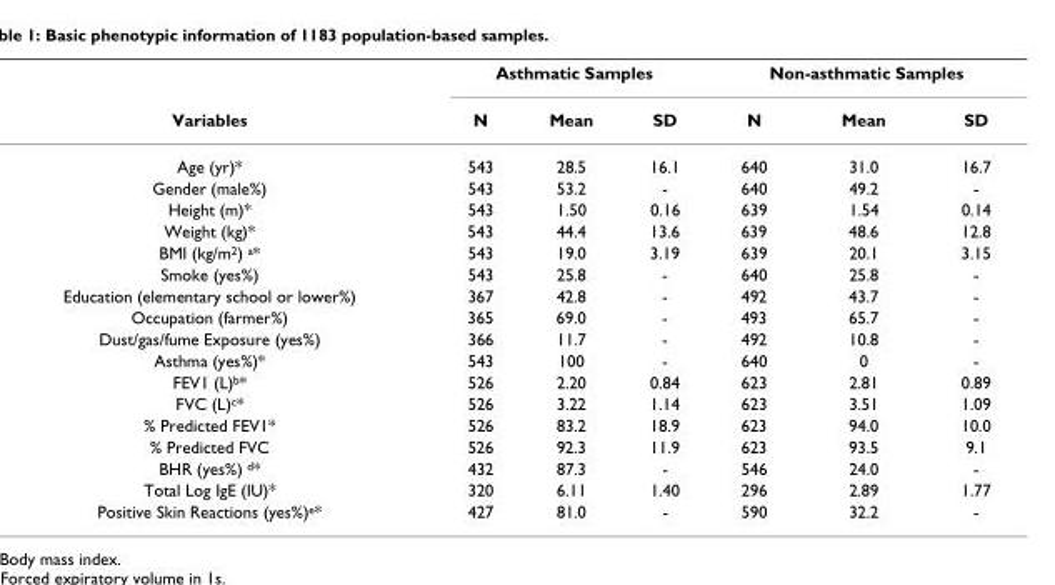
<table><thead><tr><td rowspan="2">Variables</td><td colspan="3">Asthmatic Samples</td><td colspan="3">Non-asthmatic Samples</td></tr><tr><td>N</td><td>Mean</td><td>SD</td><td>N</td><td>Mean</td><td>SD</td></tr></thead><tbody><tr><td>Age (yr)*</td><td>543</td><td>28.5</td><td>16.1</td><td>640</td><td>31.0</td><td>16.7</td></tr><tr><td>Gender (male%)</td><td>543</td><td>53.2</td><td>-</td><td>640</td><td>49.2</td><td>-</td></tr><tr><td>Height (m)*</td><td>543</td><td>1.50</td><td>0.16</td><td>639</td><td>1.54</td><td>0.14</td></tr><tr><td>Weight (kg)*</td><td>543</td><td>44.4</td><td>13.6</td><td>639</td><td>48.6</td><td>12.8</td></tr><tr><td>BMI (kg/m<sup>2</sup>) <sup>a</sup>*</td><td>543</td><td>19.0</td><td>3.19</td><td>639</td><td>20.1</td><td>3.15</td></tr><tr><td>Smoke (yes%)</td><td>543</td><td>25.8</td><td>-</td><td>640</td><td>25.8</td><td>-</td></tr><tr><td>Education (elementary school or lower%)</td><td>367</td><td>42.8</td><td>-</td><td>492</td><td>43.7</td><td>-</td></tr><tr><td>Occupation (farmer%)</td><td>365</td><td>69.0</td><td>-</td><td>493</td><td>65.7</td><td>-</td></tr><tr><td>Dust/gas/fume Exposure (yes%)</td><td>366</td><td>11.7</td><td>-</td><td>492</td><td>10.8</td><td>-</td></tr><tr><td>Asthma (yes%)*</td><td>543</td><td>100</td><td>-</td><td>640</td><td>0</td><td>-</td></tr><tr><td>FEV1 (L)<sup>b</sup>*</td><td>526</td><td>2.20</td><td>0.84</td><td>623</td><td>2.81</td><td>0.89</td></tr><tr><td>FVC (L)<sup>c</sup>*</td><td>526</td><td>3.22</td><td>1.14</td><td>623</td><td>3.51</td><td>1.09</td></tr><tr><td>% Predicted FEV1*</td><td>526</td><td>83.2</td><td>18.9</td><td>623</td><td>94.0</td><td>10.0</td></tr><tr><td>% Predicted FVC</td><td>526</td><td>92.3</td><td>11.9</td><td>623</td><td>93.5</td><td>9.1</td></tr><tr><td>BHR (yes%) <sup>d</sup>*</td><td>432</td><td>87.3</td><td>-</td><td>546</td><td>24.0</td><td>-</td></tr><tr><td>Total Log IgE (IU)*</td><td>320</td><td>6.11</td><td>1.40</td><td>296</td><td>2.89</td><td>1.77</td></tr><tr><td>Positive Skin Reactions (yes%)<sup>e</sup>*</td><td>427</td><td>81.0</td><td>-</td><td>590</td><td>32.2</td><td>-</td></tr></tbody></table>